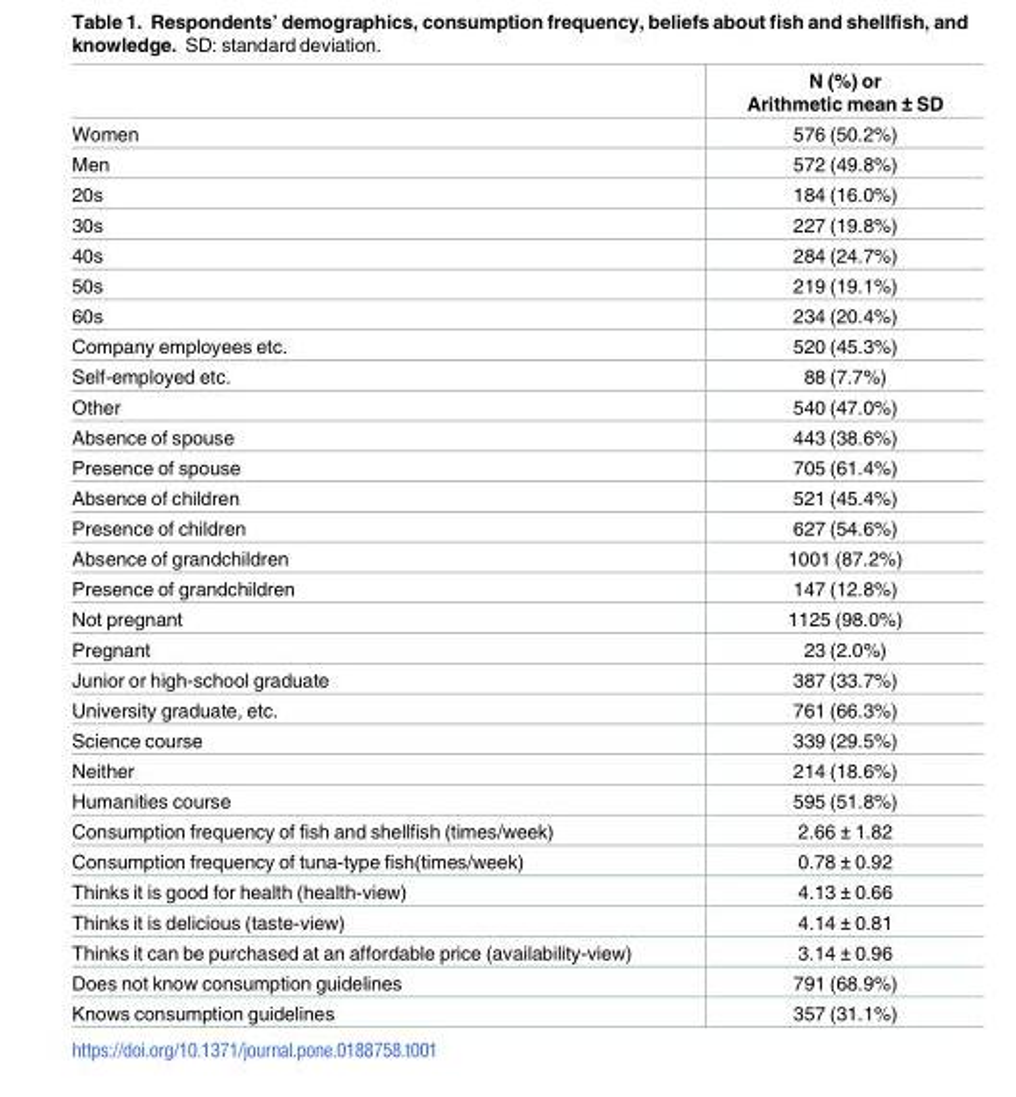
<table><thead><tr><td></td><td>N (%) or Arithmetic mean ± SD</td></tr></thead><tbody><tr><td>Women</td><td>576 (50.2%)</td></tr><tr><td>Men</td><td>572 (49.8%)</td></tr><tr><td>20s</td><td>184 (16.0%)</td></tr><tr><td>30s</td><td>227 (19.8%)</td></tr><tr><td>40s</td><td>284 (24.7%)</td></tr><tr><td>50s</td><td>219 (19.1%)</td></tr><tr><td>60s</td><td>234 (20.4%)</td></tr><tr><td>Company employees etc.</td><td>520 (45.3%)</td></tr><tr><td>Self-employed etc.</td><td>88 (7.7%)</td></tr><tr><td>Other</td><td>540 (47.0%)</td></tr><tr><td>Absence of spouse</td><td>443 (38.6%)</td></tr><tr><td>Presence of spouse</td><td>705 (61.4%)</td></tr><tr><td>Absence of children</td><td>521 (45.4%)</td></tr><tr><td>Presence of children</td><td>627 (54.6%)</td></tr><tr><td>Absence of grandchildren</td><td>1001 (87.2%)</td></tr><tr><td>Presence of grandchildren</td><td>147 (12.8%)</td></tr><tr><td>Not pregnant</td><td>1125 (98.0%)</td></tr><tr><td>Pregnant</td><td>23 (2.0%)</td></tr><tr><td>Junior or high-school graduate</td><td>387 (33.7%)</td></tr><tr><td>University graduate, etc.</td><td>761 (66.3%)</td></tr><tr><td>Science course</td><td>339 (29.5%)</td></tr><tr><td>Neither</td><td>214 (18.6%)</td></tr><tr><td>Humanities course</td><td>595 (51.8%)</td></tr><tr><td>Consumption frequency of fish and shellfish (times/week)</td><td>2.66 ± 1.82</td></tr><tr><td>Consumption frequency of tuna-type fish(times/week)</td><td>0.78 ± 0.92</td></tr><tr><td>Thinks it is good for health (health-view)</td><td>4.13 ± 0.66</td></tr><tr><td>Thinks it is delicious (taste-view)</td><td>4.14 ± 0.81</td></tr><tr><td>Thinks it can be purchased at an affordable price (availability-view)</td><td>3.14 ± 0.96</td></tr><tr><td>Does not know consumption guidelines</td><td>791 (68.9%)</td></tr><tr><td>Knows consumption guidelines</td><td>357 (31.1%)</td></tr></tbody></table>